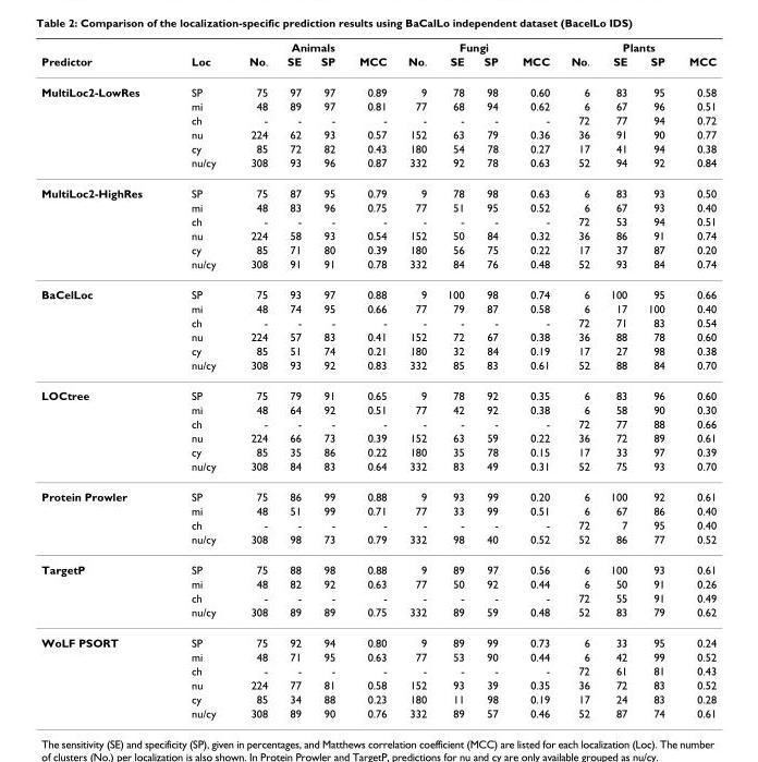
<table><thead><tr><td rowspan="2">Predictor</td><td rowspan="2">Loc</td><td colspan="4">Animals</td><td colspan="4">Fungi</td><td colspan="4">Plants</td></tr><tr><td>No.</td><td>SE</td><td>SP</td><td>MCC</td><td>No.</td><td>SE</td><td>SP</td><td>MCC</td><td>No.</td><td>SE</td><td>SP</td><td>MCC</td></tr></thead><tbody><tr><td rowspan="6">MultiLoc2-LowRes</td><td>SP</td><td>75</td><td>97</td><td>97</td><td>0.89</td><td>9</td><td>78</td><td>98</td><td>0.60</td><td>6</td><td>83</td><td>95</td><td>0.58</td></tr><tr><td>mi</td><td>48</td><td>89</td><td>97</td><td>0.81</td><td>77</td><td>68</td><td>94</td><td>0.62</td><td>6</td><td>67</td><td>96</td><td>0.51</td></tr><tr><td>ch</td><td>-</td><td>-</td><td>-</td><td>-</td><td>-</td><td>-</td><td>-</td><td>-</td><td>72</td><td>77</td><td>94</td><td>0.72</td></tr><tr><td>nu</td><td>224</td><td>62</td><td>93</td><td>0.57</td><td>152</td><td>63</td><td>79</td><td>0.36</td><td>36</td><td>91</td><td>90</td><td>0.77</td></tr><tr><td>cy</td><td>85</td><td>72</td><td>82</td><td>0.43</td><td>180</td><td>54</td><td>78</td><td>0.27</td><td>17</td><td>41</td><td>94</td><td>0.38</td></tr><tr><td>nu/cy</td><td>308</td><td>93</td><td>96</td><td>0.87</td><td>332</td><td>92</td><td>78</td><td>0.63</td><td>52</td><td>94</td><td>92</td><td>0.84</td></tr><tr><td rowspan="6">MultiLoc2-HighRes</td><td>SP</td><td>75</td><td>87</td><td>95</td><td>0.79</td><td>9</td><td>78</td><td>98</td><td>0.63</td><td>6</td><td>83</td><td>93</td><td>0.50</td></tr><tr><td>mi</td><td>48</td><td>83</td><td>96</td><td>0.75</td><td>77</td><td>51</td><td>95</td><td>0.52</td><td>6</td><td>67</td><td>93</td><td>0.40</td></tr><tr><td>ch</td><td>-</td><td>-</td><td>-</td><td>-</td><td>-</td><td>-</td><td>-</td><td>-</td><td>72</td><td>53</td><td>94</td><td>0.51</td></tr><tr><td>nu</td><td>224</td><td>58</td><td>93</td><td>0.54</td><td>152</td><td>50</td><td>84</td><td>0.32</td><td>36</td><td>86</td><td>91</td><td>0.74</td></tr><tr><td>cy</td><td>85</td><td>71</td><td>80</td><td>0.39</td><td>180</td><td>56</td><td>75</td><td>0.22</td><td>17</td><td>37</td><td>87</td><td>0.20</td></tr><tr><td>nu/cy</td><td>308</td><td>91</td><td>91</td><td>0.78</td><td>332</td><td>84</td><td>76</td><td>0.48</td><td>52</td><td>93</td><td>84</td><td>0.74</td></tr><tr><td rowspan="6">BaCelLoc</td><td>SP</td><td>75</td><td>93</td><td>97</td><td>0.88</td><td>9</td><td>100</td><td>98</td><td>0.74</td><td>6</td><td>100</td><td>95</td><td>0.66</td></tr><tr><td>mi</td><td>48</td><td>74</td><td>95</td><td>0.66</td><td>77</td><td>79</td><td>87</td><td>0.58</td><td>6</td><td>17</td><td>100</td><td>0.40</td></tr><tr><td>ch</td><td>-</td><td>-</td><td>-</td><td>-</td><td>-</td><td>-</td><td>-</td><td>-</td><td>72</td><td>71</td><td>83</td><td>0.54</td></tr><tr><td>nu</td><td>224</td><td>57</td><td>83</td><td>0.41</td><td>152</td><td>72</td><td>67</td><td>0.38</td><td>36</td><td>88</td><td>78</td><td>0.60</td></tr><tr><td>cy</td><td>85</td><td>51</td><td>74</td><td>0.21</td><td>180</td><td>32</td><td>84</td><td>0.19</td><td>17</td><td>27</td><td>98</td><td>0.38</td></tr><tr><td>nu/cy</td><td>308</td><td>93</td><td>92</td><td>0.83</td><td>332</td><td>85</td><td>83</td><td>0.61</td><td>52</td><td>88</td><td>84</td><td>0.70</td></tr><tr><td rowspan="6">LOCtree</td><td>SP</td><td>75</td><td>79</td><td>91</td><td>0.65</td><td>9</td><td>78</td><td>92</td><td>0.35</td><td>6</td><td>83</td><td>96</td><td>0.60</td></tr><tr><td>mi</td><td>48</td><td>64</td><td>92</td><td>0.51</td><td>77</td><td>42</td><td>92</td><td>0.38</td><td>6</td><td>58</td><td>90</td><td>0.30</td></tr><tr><td>ch</td><td>-</td><td>-</td><td>-</td><td>-</td><td>-</td><td>-</td><td>-</td><td>-</td><td>72</td><td>77</td><td>88</td><td>0.66</td></tr><tr><td>nu</td><td>224</td><td>66</td><td>73</td><td>0.39</td><td>152</td><td>63</td><td>59</td><td>0.22</td><td>36</td><td>72</td><td>89</td><td>0.61</td></tr><tr><td>cy</td><td>85</td><td>35</td><td>86</td><td>0.22</td><td>180</td><td>35</td><td>78</td><td>0.15</td><td>17</td><td>33</td><td>97</td><td>0.39</td></tr><tr><td>nu/cy</td><td>308</td><td>84</td><td>83</td><td>0.64</td><td>332</td><td>83</td><td>49</td><td>0.31</td><td>52</td><td>75</td><td>93</td><td>0.70</td></tr><tr><td rowspan="4">Protein Prowler</td><td>SP</td><td>75</td><td>86</td><td>99</td><td>0.88</td><td>9</td><td>93</td><td>99</td><td>0.20</td><td>6</td><td>100</td><td>92</td><td>0.61</td></tr><tr><td>mi</td><td>48</td><td>51</td><td>99</td><td>0.71</td><td>77</td><td>33</td><td>99</td><td>0.51</td><td>6</td><td>67</td><td>86</td><td>0.40</td></tr><tr><td>ch</td><td>-</td><td>-</td><td>-</td><td>-</td><td>-</td><td>-</td><td>-</td><td>-</td><td>72</td><td>7</td><td>95</td><td>0.40</td></tr><tr><td>nu/cy</td><td>308</td><td>98</td><td>73</td><td>0.79</td><td>332</td><td>98</td><td>40</td><td>0.52</td><td>52</td><td>86</td><td>77</td><td>0.52</td></tr><tr><td rowspan="4">TargetP</td><td>SP</td><td>75</td><td>88</td><td>98</td><td>0.88</td><td>9</td><td>89</td><td>97</td><td>0.56</td><td>6</td><td>100</td><td>93</td><td>0.61</td></tr><tr><td>mi</td><td>48</td><td>82</td><td>92</td><td>0.63</td><td>77</td><td>50</td><td>92</td><td>0.44</td><td>6</td><td>50</td><td>91</td><td>0.26</td></tr><tr><td>ch</td><td>-</td><td>-</td><td>-</td><td>-</td><td>-</td><td>-</td><td>-</td><td>-</td><td>72</td><td>55</td><td>91</td><td>0.49</td></tr><tr><td>nu/cy</td><td>308</td><td>89</td><td>89</td><td>0.75</td><td>332</td><td>89</td><td>59</td><td>0.48</td><td>52</td><td>83</td><td>79</td><td>0.62</td></tr><tr><td rowspan="6">WoLF PSORT</td><td>SP</td><td>75</td><td>92</td><td>94</td><td>0.80</td><td>9</td><td>89</td><td>99</td><td>0.73</td><td>6</td><td>33</td><td>95</td><td>0.24</td></tr><tr><td>mi</td><td>48</td><td>71</td><td>95</td><td>0.63</td><td>77</td><td>53</td><td>90</td><td>0.44</td><td>6</td><td>42</td><td>99</td><td>0.52</td></tr><tr><td>ch</td><td>-</td><td>-</td><td>-</td><td>-</td><td>-</td><td>-</td><td>-</td><td>-</td><td>72</td><td>61</td><td>81</td><td>0.43</td></tr><tr><td>nu</td><td>224</td><td>77</td><td>81</td><td>0.58</td><td>152</td><td>93</td><td>39</td><td>0.35</td><td>36</td><td>72</td><td>83</td><td>0.52</td></tr><tr><td>cy</td><td>85</td><td>34</td><td>88</td><td>0.23</td><td>180</td><td>11</td><td>98</td><td>0.19</td><td>17</td><td>24</td><td>83</td><td>0.28</td></tr><tr><td>nu/cy</td><td>308</td><td>89</td><td>90</td><td>0.76</td><td>332</td><td>89</td><td>57</td><td>0.46</td><td>52</td><td>87</td><td>74</td><td>0.61</td></tr></tbody></table>